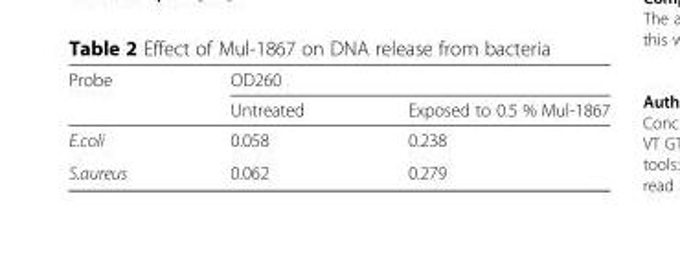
<table><thead><tr><td rowspan="2">Probe</td><td colspan="2">OD260</td></tr><tr><td>Untreated</td><td>Exposed to 0.5 % Mul-1867</td></tr></thead><tbody><tr><td>E.coli</td><td>0.058</td><td>0.238</td></tr><tr><td>S.aureus</td><td>0.062</td><td>0.279</td></tr></tbody></table>